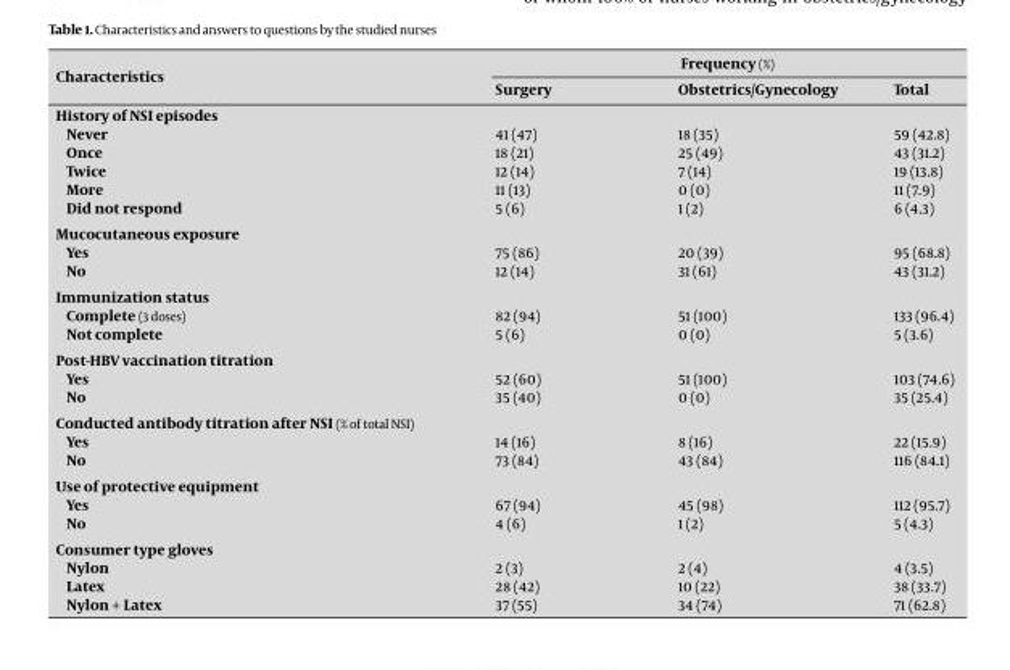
<table><thead><tr><td rowspan="2">Characteristics</td><td colspan="3">Frequency (%)</td></tr><tr><td>Surgery</td><td>Obstetrics/Gynecology</td><td>Total</td></tr></thead><tbody><tr><td colspan="4">History of NSI episodes</td></tr><tr><td>Never</td><td>41 (47)</td><td>18 (35)</td><td>59 (42.8)</td></tr><tr><td>Once</td><td>18 (21)</td><td>25 (49)</td><td>43 (31.2)</td></tr><tr><td>Twice</td><td>12 (14)</td><td>7 (14)</td><td>19 (13.8)</td></tr><tr><td>More</td><td>11 (13)</td><td>0 (0)</td><td>11 (7.9)</td></tr><tr><td>Did not respond</td><td>5 (6)</td><td>1 (2)</td><td>6 (4.3)</td></tr><tr><td colspan="4">Mucocutaneous exposure</td></tr><tr><td>Yes</td><td>75 (86)</td><td>20 (39)</td><td>95 (68.8)</td></tr><tr><td>No</td><td>12 (14)</td><td>31 (61)</td><td>43 (31.2)</td></tr><tr><td colspan="4">Immunization status</td></tr><tr><td>Complete (3 doses)</td><td>82 (94)</td><td>51 (100)</td><td>133 (96.4)</td></tr><tr><td>Not complete</td><td>5 (6)</td><td>0 (0)</td><td>5 (3.6)</td></tr><tr><td colspan="4">Post-HBV vaccination titration</td></tr><tr><td>Yes</td><td>52 (60)</td><td>51 (100)</td><td>103 (74.6)</td></tr><tr><td>No</td><td>35 (40)</td><td>0 (0)</td><td>35 (25.4)</td></tr><tr><td colspan="4">Conducted antibody titration after NSI (% of total NSI)</td></tr><tr><td>Yes</td><td>14 (16)</td><td>8 (16)</td><td>22 (15.9)</td></tr><tr><td>No</td><td>73 (84)</td><td>43 (84)</td><td>116 (84.1)</td></tr><tr><td colspan="4">Use of protective equipment</td></tr><tr><td>Yes</td><td>67 (94)</td><td>45 (98)</td><td>112 (95.7)</td></tr><tr><td>No</td><td>4 (6)</td><td>1 (2)</td><td>5 (4.3)</td></tr><tr><td colspan="4">Consumer type gloves</td></tr><tr><td>Nylon</td><td>2 (3)</td><td>2 (4)</td><td>4 (3.5)</td></tr><tr><td>Latex</td><td>28 (42)</td><td>10 (22)</td><td>38 (33.7)</td></tr><tr><td>Nylon + Latex</td><td>37 (55)</td><td>34 (74)</td><td>71 (62.8)</td></tr></tbody></table>